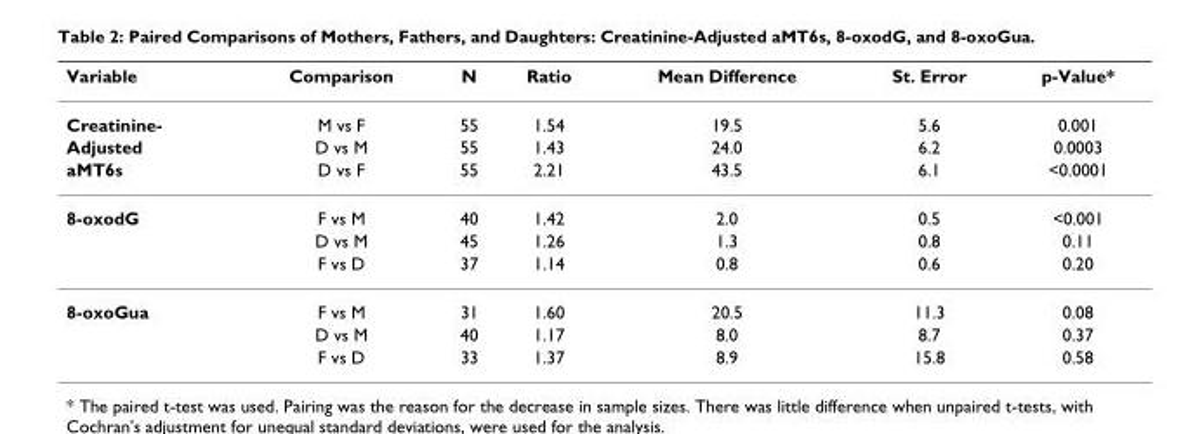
<table><thead><tr><td>Variable</td><td>Comparison</td><td>N</td><td>Ratio</td><td>Mean Difference</td><td>St. Error</td><td>p-Value*</td></tr></thead><tbody><tr><td>Creatinine-</td><td>M vs F</td><td>55</td><td>1.54</td><td>19.5</td><td>5.6</td><td>0.001</td></tr><tr><td>Adjusted</td><td>D vs M</td><td>55</td><td>1.43</td><td>24.0</td><td>6.2</td><td>0.0003</td></tr><tr><td>aMT6s</td><td>D vs F</td><td>55</td><td>2.21</td><td>43.5</td><td>6.1</td><td>&lt;0.0001</td></tr><tr><td rowspan="3">8-oxodG</td><td>F vs M</td><td>40</td><td>1.42</td><td>2.0</td><td>0.5</td><td>&lt;0.001</td></tr><tr><td>D vs M</td><td>45</td><td>1.26</td><td>1.3</td><td>0.8</td><td>0.11</td></tr><tr><td>F vs D</td><td>37</td><td>1.14</td><td>0.8</td><td>0.6</td><td>0.20</td></tr><tr><td rowspan="3">8-oxoGua</td><td>F vs M</td><td>31</td><td>1.60</td><td>20.5</td><td>11.3</td><td>0.08</td></tr><tr><td>D vs M</td><td>40</td><td>1.17</td><td>8.0</td><td>8.7</td><td>0.37</td></tr><tr><td>F vs D</td><td>33</td><td>1.37</td><td>8.9</td><td>15.8</td><td>0.58</td></tr></tbody></table>